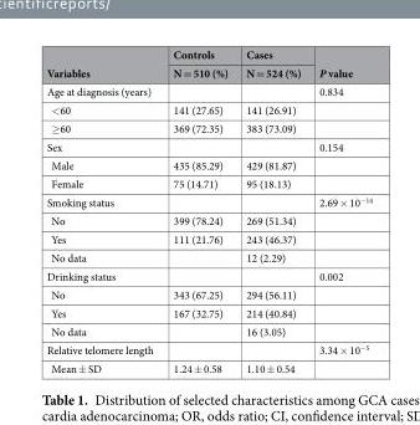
<table><thead><tr><td rowspan="2">Variables</td><td rowspan="2">Controls N = 510 (%)</td><td rowspan="2">Cases N = 524 (%)</td><td rowspan="2">P value</td></tr><tr></tr></thead><tbody><tr><td>Age at diagnosis (years)</td><td></td><td></td><td>0.834</td></tr><tr><td>&lt;60</td><td>141 (27.65)</td><td>141 (26.91)</td><td></td></tr><tr><td>≥60</td><td>369 (72.35)</td><td>383 (73.09)</td><td></td></tr><tr><td>Sex</td><td></td><td></td><td>0.154</td></tr><tr><td>Male</td><td>435 (85.29)</td><td>429 (81.87)</td><td></td></tr><tr><td>Female</td><td>75 (14.71)</td><td>95 (18.13)</td><td></td></tr><tr><td>Smoking status</td><td></td><td></td><td>2.69 × 10<sup>−14</sup></td></tr><tr><td>No</td><td>399 (78.24)</td><td>269 (51.34)</td><td></td></tr><tr><td>Yes</td><td>111 (21.76)</td><td>243 (46.37)</td><td></td></tr><tr><td>No data</td><td></td><td>12 (2.29)</td><td></td></tr><tr><td>Drinking status</td><td></td><td></td><td>0.002</td></tr><tr><td>No</td><td>343 (67.25)</td><td>294 (56.11)</td><td></td></tr><tr><td>Yes</td><td>167 (32.75)</td><td>214 (40.84)</td><td></td></tr><tr><td>No data</td><td></td><td>16 (3.05)</td><td></td></tr><tr><td>Relative telomere length</td><td></td><td></td><td>3.34 × 10<sup>−5</sup></td></tr><tr><td>Mean ± SD</td><td>1.24 ± 0.58</td><td>1.10 ± 0.54</td><td></td></tr></tbody></table>